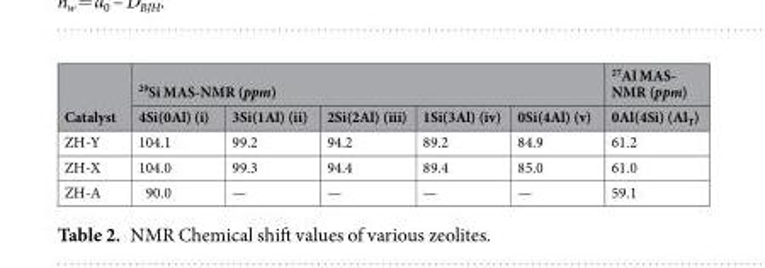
<table><thead><tr><td rowspan="2">Catalyst</td><td colspan="5"><sup>29</sup>Si MAS-NMR (ppm)</td><td rowspan="2"><sup>27</sup>Al MAS- NMR (ppm) 0Al(4Si) (Al<sub>T</sub>)</td></tr><tr><td>4Si(0Al) (i)</td><td>3Si(1Al) (ii)</td><td>2Si(2Al) (iii)</td><td>1Si(3Al) (iv)</td><td>0Si(4Al) (v)</td></tr></thead><tbody><tr><td>ZH-Y</td><td>104.1</td><td>99.2</td><td>94.2</td><td>89.2</td><td>84.9</td><td>61.2</td></tr><tr><td>ZH-X</td><td>104.0</td><td>99.3</td><td>94.4</td><td>89.4</td><td>85.0</td><td>61.0</td></tr><tr><td>ZH-A</td><td>90.0</td><td>—</td><td>—</td><td>—</td><td>—</td><td>59.1</td></tr></tbody></table>